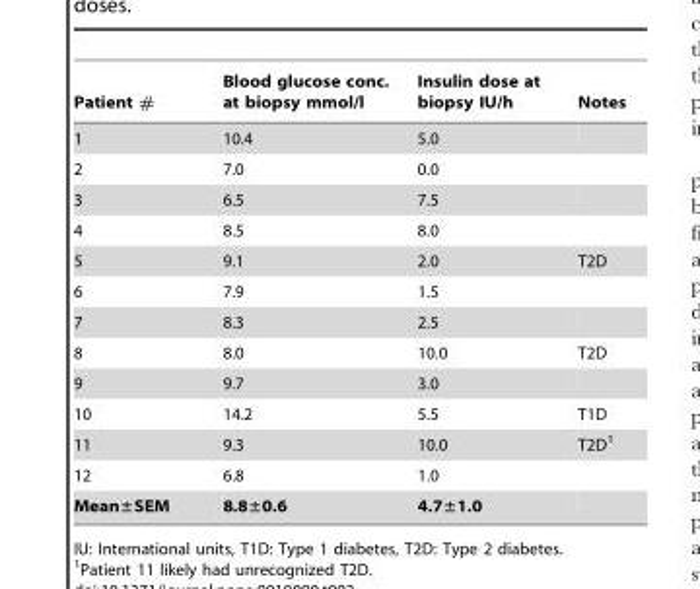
<table><thead><tr><td>Patient #</td><td>Blood glucose conc. at biopsy mmol/l</td><td>Insulin dose at biopsy IU/h</td><td>Notes</td></tr></thead><tbody><tr><td>1</td><td>10.4</td><td>5.0</td><td></td></tr><tr><td>2</td><td>7.0</td><td>0.0</td><td></td></tr><tr><td>3</td><td>6.5</td><td>7.5</td><td></td></tr><tr><td>4</td><td>8.5</td><td>8.0</td><td></td></tr><tr><td>5</td><td>9.1</td><td>2.0</td><td>T2D</td></tr><tr><td>6</td><td>7.9</td><td>1.5</td><td></td></tr><tr><td>7</td><td>8.3</td><td>2.5</td><td></td></tr><tr><td>8</td><td>8.0</td><td>10.0</td><td>T2D</td></tr><tr><td>9</td><td>9.7</td><td>3.0</td><td></td></tr><tr><td>10</td><td>14.2</td><td>5.5</td><td>T1D</td></tr><tr><td>11</td><td>9.3</td><td>10.0</td><td>T2D<sup>1</sup></td></tr><tr><td>12</td><td>6.8</td><td>1.0</td><td></td></tr><tr><td>Mean±SEM</td><td>8.8±0.6</td><td>4.7±1.0</td><td></td></tr></tbody></table>